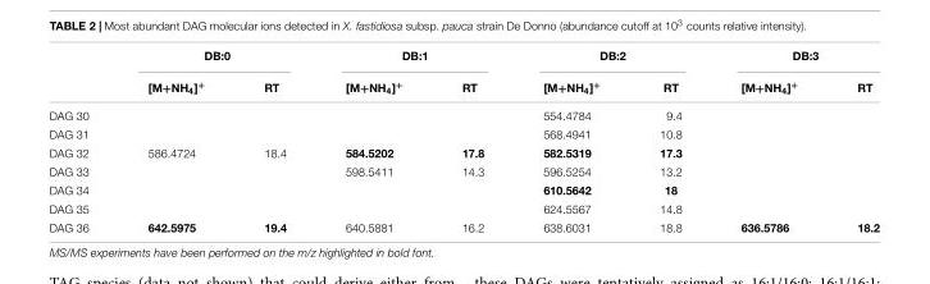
<table><thead><tr><td rowspan="2"></td><td colspan="2">DB:0</td><td colspan="2">DB:1</td><td colspan="2">DB:2</td><td colspan="2">DB:3</td></tr><tr><td>[M+NH<sub>4</sub>]<sup>+</sup></td><td>RT</td><td>[M+NH<sub>4</sub>]<sup>+</sup></td><td>RT</td><td>[M+NH<sub>4</sub>]<sup>+</sup></td><td>RT</td><td>[M+NH<sub>4</sub>]<sup>+</sup></td><td>RT</td></tr></thead><tbody><tr><td>DAG 30</td><td></td><td></td><td></td><td></td><td>554.4784</td><td>9.4</td><td></td><td></td></tr><tr><td>DAG 31</td><td></td><td></td><td></td><td></td><td>568.4941</td><td>10.8</td><td></td><td></td></tr><tr><td>DAG 32</td><td>586.4724</td><td>18.4</td><td>584.5202</td><td>17.8</td><td>582.5319</td><td>17.3</td><td></td><td></td></tr><tr><td>DAG 33</td><td></td><td></td><td>598.5411</td><td>14.3</td><td>596.5254</td><td>13.2</td><td></td><td></td></tr><tr><td>DAG 34</td><td></td><td></td><td></td><td></td><td>610.5642</td><td>18</td><td></td><td></td></tr><tr><td>DAG 35</td><td></td><td></td><td></td><td></td><td>624.5567</td><td>14.8</td><td></td><td></td></tr><tr><td>DAG 36</td><td>642.5975</td><td>19.4</td><td>640.5881</td><td>16.2</td><td>638.6031</td><td>18.8</td><td>636.5786</td><td>18.2</td></tr></tbody></table>